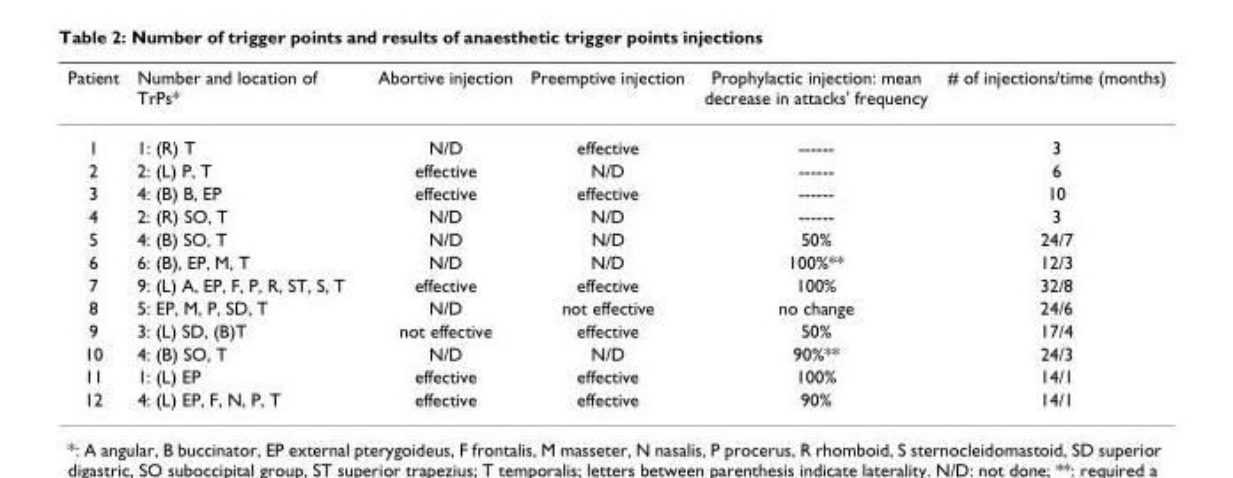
<table><thead><tr><td>Patient</td><td>Number and location of TrPs*</td><td>Abortive injection</td><td>Preemptive injection</td><td>Prophylactic injection: mean decrease in attacks&#x27; frequency</td><td># of injections/time (months)</td></tr></thead><tbody><tr><td>1</td><td>1: (R) T</td><td>N/D</td><td>effective</td><td>------</td><td>3</td></tr><tr><td>2</td><td>2: (L) P, T</td><td>effective</td><td>N/D</td><td>------</td><td>6</td></tr><tr><td>3</td><td>4: (B) B, EP</td><td>effective</td><td>effective</td><td>------</td><td>10</td></tr><tr><td>4</td><td>2: (R) SO, T</td><td>N/D</td><td>N/D</td><td>------</td><td>3</td></tr><tr><td>5</td><td>4: (B) SO, T</td><td>N/D</td><td>N/D</td><td>50%</td><td>24/7</td></tr><tr><td>6</td><td>6: (B), EP, M, T</td><td>N/D</td><td>N/D</td><td>100%**</td><td>12/3</td></tr><tr><td>7</td><td>9: (L) A, EP, F, P, R, ST, S, T</td><td>effective</td><td>effective</td><td>100%</td><td>32/8</td></tr><tr><td>8</td><td>5: EP, M, P, SD, T</td><td>N/D</td><td>not effective</td><td>no change</td><td>24/6</td></tr><tr><td>9</td><td>3: (L) SD, (B)T</td><td>not effective</td><td>effective</td><td>50%</td><td>17/4</td></tr><tr><td>10</td><td>4: (B) SO, T</td><td>N/D</td><td>N/D</td><td>90%**</td><td>24/3</td></tr><tr><td>11</td><td>1: (L) EP</td><td>effective</td><td>effective</td><td>100%</td><td>14/1</td></tr><tr><td>12</td><td>4: (L) EP, F, N, P, T</td><td>effective</td><td>effective</td><td>90%</td><td>14/1</td></tr></tbody></table>